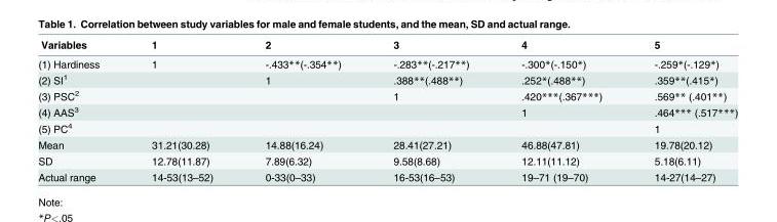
<table><thead><tr><td>Variables</td><td>1</td><td>2</td><td>3</td><td>4</td><td>5</td></tr></thead><tbody><tr><td>(1) Hardiness</td><td>1</td><td>-.433**(-.354**)</td><td>-.283**(-.217**)</td><td>-.300*(-.150*)</td><td>-.259*(-.129*)</td></tr><tr><td>(2) SI<sup>1</sup></td><td></td><td>1</td><td>.388**(.488**)</td><td>.252*(.488**)</td><td>.359**(.415*)</td></tr><tr><td>(3) PSC<sup>2</sup></td><td></td><td></td><td>1</td><td>.420***(.367***)</td><td>.569** (.401**)</td></tr><tr><td>(4) AAS<sup>3</sup></td><td></td><td></td><td></td><td>1</td><td>.464*** (.517***)</td></tr><tr><td>(5) PC<sup>4</sup></td><td></td><td></td><td></td><td></td><td>1</td></tr><tr><td>Mean</td><td>31.21(30.28)</td><td>14.88(16.24)</td><td>28.41(27.21)</td><td>46.88(47.81)</td><td>19.78(20.12)</td></tr><tr><td>SD</td><td>12.78(11.87)</td><td>7.89(6.32)</td><td>9.58(8.68)</td><td>12.11(11.12)</td><td>5.18(6.11)</td></tr><tr><td>Actual range</td><td>14-53(13–52)</td><td>0-33(0–33)</td><td>16-53(16–53)</td><td>19–71 (19–70)</td><td>14-27(14–27)</td></tr></tbody></table>